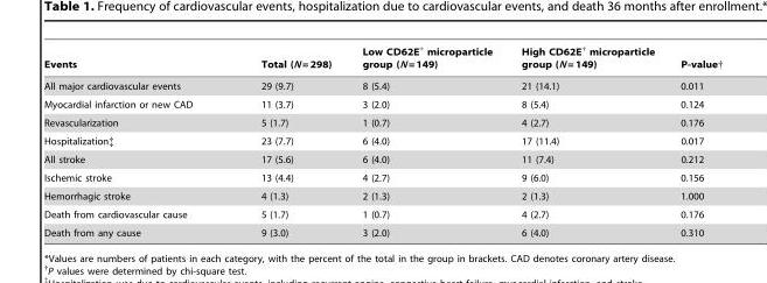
<table><thead><tr><td>Events</td><td>Total (N = 298)</td><td>Low CD62E<sup>+</sup> microparticle group (N = 149)</td><td>High CD62E<sup>+</sup> microparticle group (N = 149)</td><td>P-value†</td></tr></thead><tbody><tr><td>All major cardiovascular events</td><td>29 (9.7)</td><td>8 (5.4)</td><td>21 (14.1)</td><td>0.011</td></tr><tr><td>Myocardial infarction or new CAD</td><td>11 (3.7)</td><td>3 (2.0)</td><td>8 (5.4)</td><td>0.124</td></tr><tr><td>Revascularization</td><td>5 (1.7)</td><td>1 (0.7)</td><td>4 (2.7)</td><td>0.176</td></tr><tr><td>Hospitalization‡</td><td>23 (7.7)</td><td>6 (4.0)</td><td>17 (11.4)</td><td>0.017</td></tr><tr><td>All stroke</td><td>17 (5.6)</td><td>6 (4.0)</td><td>11 (7.4)</td><td>0.212</td></tr><tr><td>Ischemic stroke</td><td>13 (4.4)</td><td>4 (2.7)</td><td>9 (6.0)</td><td>0.156</td></tr><tr><td>Hemorrhagic stroke</td><td>4 (1.3)</td><td>2 (1.3)</td><td>2 (1.3)</td><td>1.000</td></tr><tr><td>Death from cardiovascular cause</td><td>5 (1.7)</td><td>1 (0.7)</td><td>4 (2.7)</td><td>0.176</td></tr><tr><td>Death from any cause</td><td>9 (3.0)</td><td>3 (2.0)</td><td>6 (4.0)</td><td>0.310</td></tr></tbody></table>